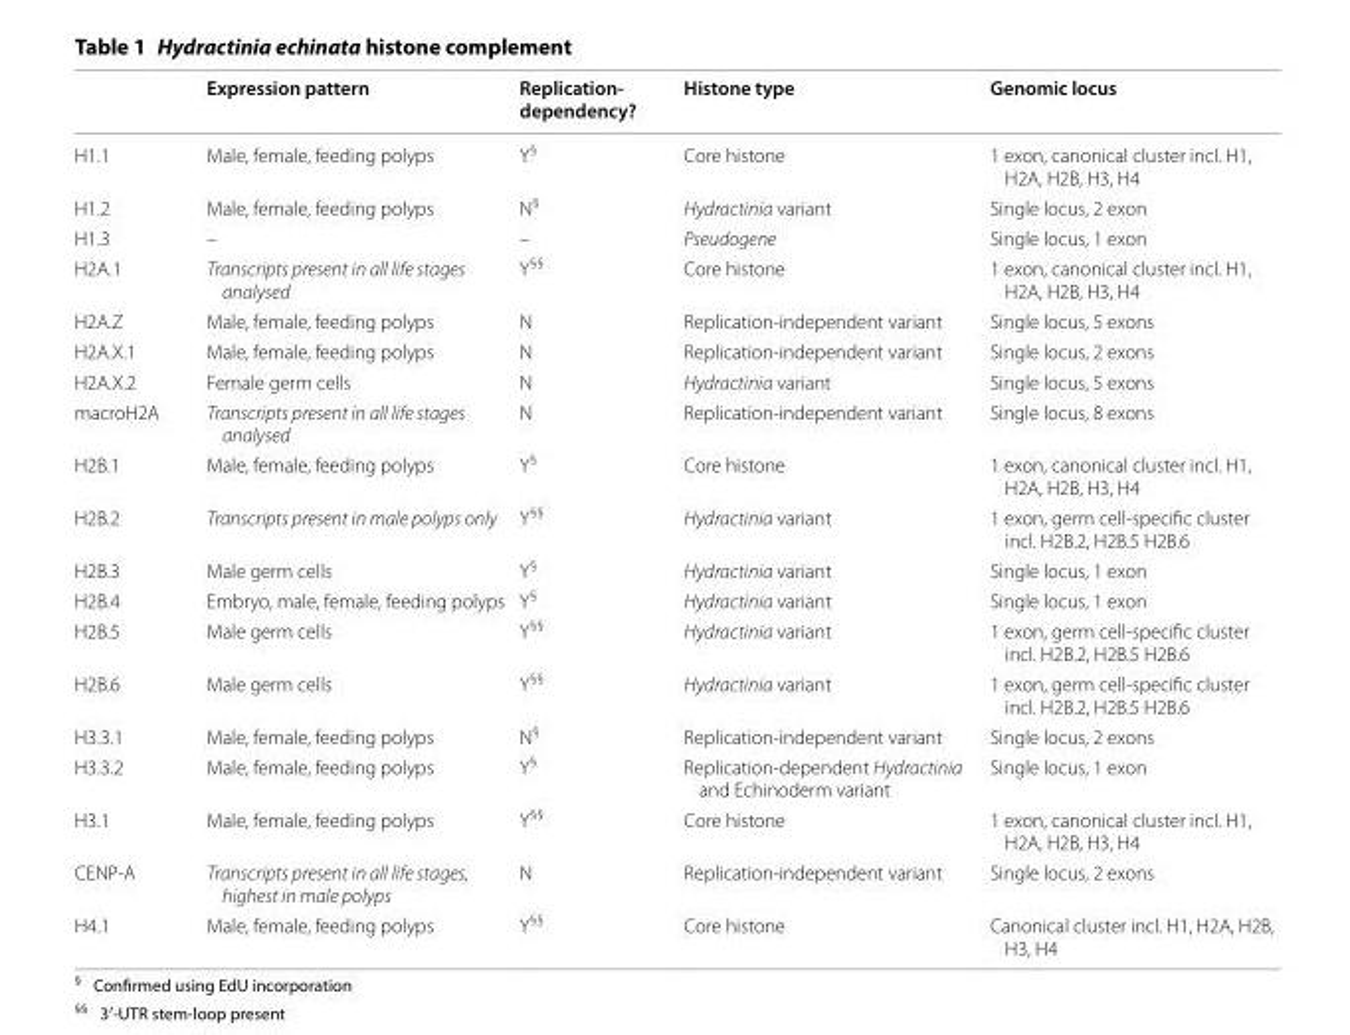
<table><thead><tr><td></td><td>Expression pattern</td><td>Replication‑ dependency?</td><td>Histone type</td><td>Genomic locus</td></tr></thead><tbody><tr><td>H1.1</td><td>Male, female, feeding polyps</td><td>Y<sup>§</sup></td><td>Core histone</td><td>1 exon, canonical cluster incl. H1, H2A, H2B, H3, H4</td></tr><tr><td>H1.2</td><td>Male, female, feeding polyps</td><td>N<sup>§</sup></td><td>Hydractinia variant</td><td>Single locus, 2 exon</td></tr><tr><td>H1.3</td><td>–</td><td>–</td><td>Pseudogene</td><td>Single locus, 1 exon</td></tr><tr><td>H2A.1</td><td>Transcripts present in all life stages analysed</td><td>Y<sup>§§</sup></td><td>Core histone</td><td>1 exon, canonical cluster incl. H1, H2A, H2B, H3, H4</td></tr><tr><td>H2A.Z</td><td>Male, female, feeding polyps</td><td>N</td><td>Replication-independent variant</td><td>Single locus, 5 exons</td></tr><tr><td>H2A.X.1</td><td>Male, female, feeding polyps</td><td>N</td><td>Replication-independent variant</td><td>Single locus, 2 exons</td></tr><tr><td>H2A.X.2</td><td>Female germ cells</td><td>N</td><td>Hydractinia variant</td><td>Single locus, 5 exons</td></tr><tr><td>macroH2A</td><td>Transcripts present in all life stages analysed</td><td>N</td><td>Replication-independent variant</td><td>Single locus, 8 exons</td></tr><tr><td>H2B.1</td><td>Male, female, feeding polyps</td><td>Y<sup>§</sup></td><td>Core histone</td><td>1 exon, canonical cluster incl. H1, H2A, H2B, H3, H4</td></tr><tr><td>H2B.2</td><td>Transcripts present in male polyps only</td><td>Y<sup>§§</sup></td><td>Hydractinia variant</td><td>1 exon, germ cell-specific cluster incl. H2B.2, H2B.5 H2B.6</td></tr><tr><td>H2B.3</td><td>Male germ cells</td><td>Y<sup>§</sup></td><td>Hydractinia variant</td><td>Single locus, 1 exon</td></tr><tr><td>H2B.4</td><td>Embryo, male, female, feeding polyps</td><td>Y<sup>§</sup></td><td>Hydractinia variant</td><td>Single locus, 1 exon</td></tr><tr><td>H2B.5</td><td>Male germ cells</td><td>Y<sup>§§</sup></td><td>Hydractinia variant</td><td>1 exon, germ cell-specific cluster incl. H2B.2, H2B.5 H2B.6</td></tr><tr><td>H2B.6</td><td>Male germ cells</td><td>Y<sup>§§</sup></td><td>Hydractinia variant</td><td>1 exon, germ cell-specific cluster incl. H2B.2, H2B.5 H2B.6</td></tr><tr><td>H3.3.1</td><td>Male, female, feeding polyps</td><td>N<sup>§</sup></td><td>Replication-independent variant</td><td>Single locus, 2 exons</td></tr><tr><td>H3.3.2</td><td>Male, female, feeding polyps</td><td>Y<sup>§</sup></td><td>Replication-dependent Hydractinia and Echinoderm variant</td><td>Single locus, 1 exon</td></tr><tr><td>H3.1</td><td>Male, female, feeding polyps</td><td>Y<sup>§§</sup></td><td>Core histone</td><td>1 exon, canonical cluster incl. H1, H2A, H2B, H3, H4</td></tr><tr><td>CENP-A</td><td>Transcripts present in all life stages, highest in male polyps</td><td>N</td><td>Replication-independent variant</td><td>Single locus, 2 exons</td></tr><tr><td>H4.1</td><td>Male, female, feeding polyps</td><td>Y<sup>§§</sup></td><td>Core histone</td><td>Canonical cluster incl. H1, H2A, H2B, H3, H4</td></tr></tbody></table>